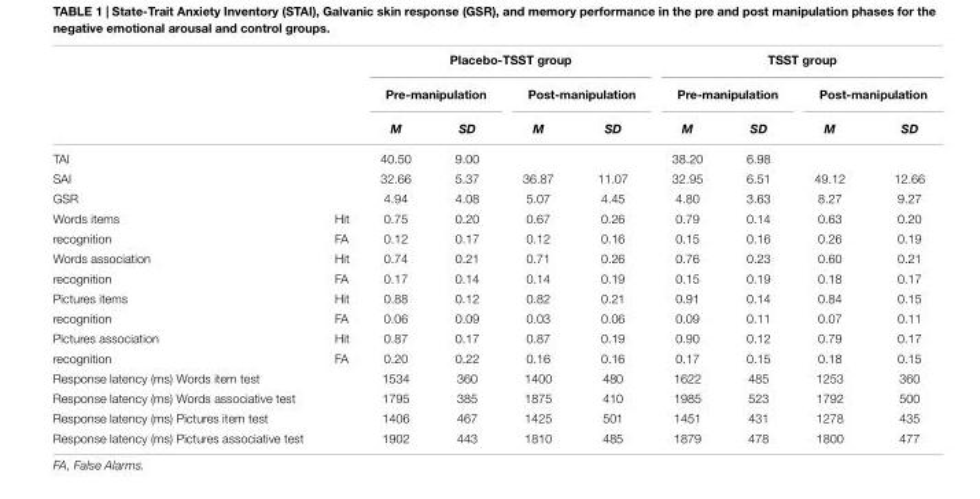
<table><thead><tr><td rowspan="3"></td><td rowspan="3"></td><td colspan="4">Placebo-TSST group</td><td colspan="4">TSST group</td></tr><tr><td colspan="2">Pre-manipulation</td><td colspan="2">Post-manipulation</td><td colspan="2">Pre-manipulation</td><td colspan="2">Post-manipulation</td></tr><tr><td>M</td><td>SD</td><td>M</td><td>SD</td><td>M</td><td>SD</td><td>M</td><td>SD</td></tr></thead><tbody><tr><td>TAI</td><td></td><td>40.50</td><td>9.00</td><td></td><td></td><td>38.20</td><td>6.98</td><td></td><td></td></tr><tr><td>SAI</td><td></td><td>32.66</td><td>5.37</td><td>36.87</td><td>11.07</td><td>32.95</td><td>6.51</td><td>49.12</td><td>12.66</td></tr><tr><td>GSR</td><td></td><td>4.94</td><td>4.08</td><td>5.07</td><td>4.45</td><td>4.80</td><td>3.63</td><td>8.27</td><td>9.27</td></tr><tr><td>Words items</td><td>Hit</td><td>0.75</td><td>0.20</td><td>0.67</td><td>0.26</td><td>0.79</td><td>0.14</td><td>0.63</td><td>0.20</td></tr><tr><td>recognition</td><td>FA</td><td>0.12</td><td>0.17</td><td>0.12</td><td>0.16</td><td>0.15</td><td>0.16</td><td>0.26</td><td>0.19</td></tr><tr><td>Words association</td><td>Hit</td><td>0.74</td><td>0.21</td><td>0.71</td><td>0.26</td><td>0.76</td><td>0.23</td><td>0.60</td><td>0.21</td></tr><tr><td>recognition</td><td>FA</td><td>0.17</td><td>0.14</td><td>0.14</td><td>0.19</td><td>0.15</td><td>0.19</td><td>0.18</td><td>0.17</td></tr><tr><td>Pictures items</td><td>Hit</td><td>0.88</td><td>0.12</td><td>0.82</td><td>0.21</td><td>0.91</td><td>0.14</td><td>0.84</td><td>0.15</td></tr><tr><td>recognition</td><td>FA</td><td>0.06</td><td>0.09</td><td>0.03</td><td>0.06</td><td>0.09</td><td>0.11</td><td>0.07</td><td>0.11</td></tr><tr><td>Pictures association</td><td>Hit</td><td>0.87</td><td>0.17</td><td>0.87</td><td>0.19</td><td>0.90</td><td>0.12</td><td>0.79</td><td>0.17</td></tr><tr><td>recognition</td><td>FA</td><td>0.20</td><td>0.22</td><td>0.16</td><td>0.16</td><td>0.17</td><td>0.15</td><td>0.18</td><td>0.15</td></tr><tr><td>Response latency (ms) Words item test</td><td></td><td>1534</td><td>360</td><td>1400</td><td>480</td><td>1622</td><td>485</td><td>1253</td><td>360</td></tr><tr><td>Response latency (ms) Words associative test</td><td></td><td>1795</td><td>385</td><td>1875</td><td>410</td><td>1985</td><td>523</td><td>1792</td><td>500</td></tr><tr><td>Response latency (ms) Pictures item test</td><td></td><td>1406</td><td>467</td><td>1425</td><td>501</td><td>1451</td><td>431</td><td>1278</td><td>435</td></tr><tr><td>Response latency (ms) Pictures associative test</td><td></td><td>1902</td><td>443</td><td>1810</td><td>485</td><td>1879</td><td>478</td><td>1800</td><td>477</td></tr></tbody></table>